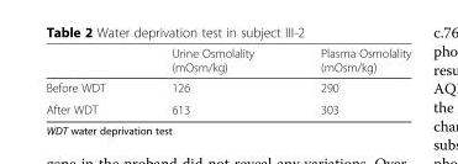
<table><thead><tr><td></td><td>Urine Osmolality (mOsm/kg)</td><td>Plasma Osmolality (mOsm/kg)</td></tr></thead><tbody><tr><td>Before WDT</td><td>126</td><td>290</td></tr><tr><td>After WDT</td><td>613</td><td>303</td></tr></tbody></table>